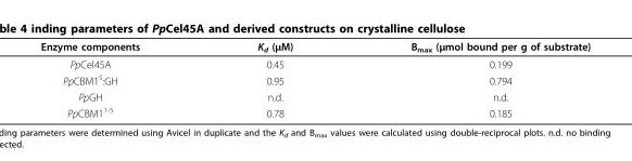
<table><thead><tr><td>Enzyme components</td><td>K<sub>d</sub> (μM)</td><td>B<sub>max</sub> (μmol bound per g of substrate)</td></tr></thead><tbody><tr><td>PpCel45A</td><td>0.45</td><td>0.199</td></tr><tr><td>PpCBM1<sup>5</sup>:GH</td><td>0.95</td><td>0.794</td></tr><tr><td>PpGH</td><td>n.d.</td><td>n.d.</td></tr><tr><td>PpCBM1<sup>1-5</sup></td><td>0.78</td><td>0.185</td></tr></tbody></table>